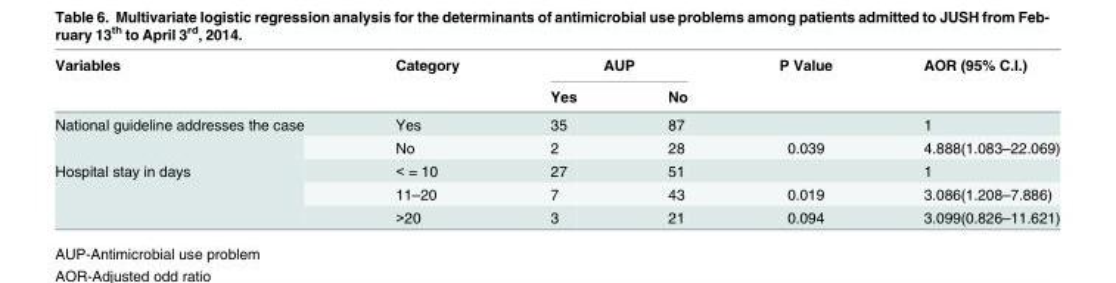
<table><thead><tr><td rowspan="2">Variables</td><td rowspan="2">Category</td><td colspan="2">AUP</td><td rowspan="2">P Value</td><td rowspan="2">AOR (95% C.I.)</td></tr><tr><td>Yes</td><td>No</td></tr></thead><tbody><tr><td rowspan="2">National guideline addresses the case</td><td>Yes</td><td>35</td><td>87</td><td></td><td>1</td></tr><tr><td>No</td><td>2</td><td>28</td><td>0.039</td><td>4.888(1.083–22.069)</td></tr><tr><td rowspan="3">Hospital stay in days</td><td>&lt; = 10</td><td>27</td><td>51</td><td></td><td>1</td></tr><tr><td>11–20</td><td>7</td><td>43</td><td>0.019</td><td>3.086(1.208–7.886)</td></tr><tr><td>&gt;20</td><td>3</td><td>21</td><td>0.094</td><td>3.099(0.826–11.621)</td></tr></tbody></table>